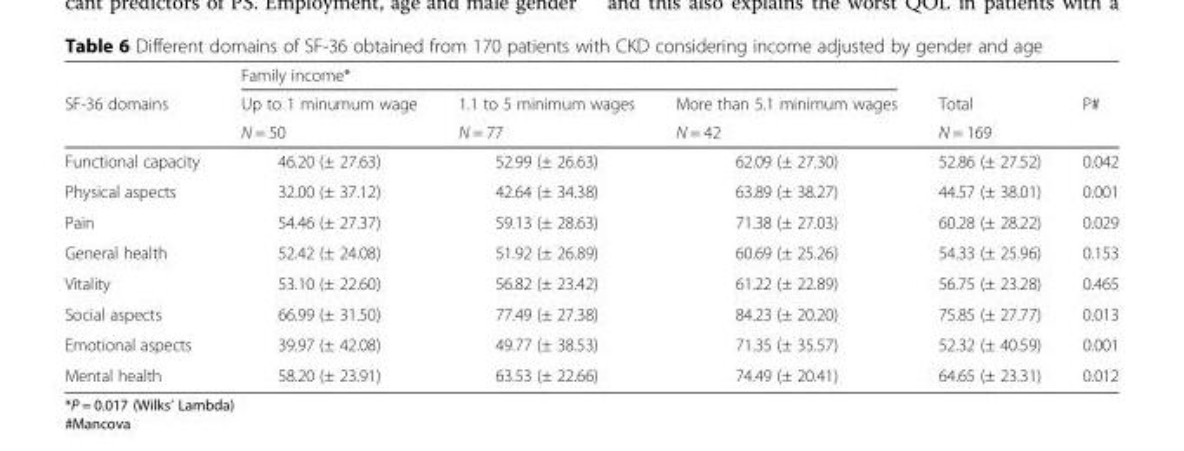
<table><thead><tr><td rowspan="3">SF-36 domains</td><td colspan="3">Family income*</td><td rowspan="3">Total N = 169</td><td rowspan="3">P#</td></tr><tr><td rowspan="2">Up to 1 minumum wage N = 50</td><td rowspan="2">1.1 to 5 minimum wages N = 77</td><td rowspan="2">More than 5.1 minimum wages N = 42</td></tr><tr></tr></thead><tbody><tr><td>Functional capacity</td><td>46.20 (± 27.63)</td><td>52.99 (± 26.63)</td><td>62.09 (± 27.30)</td><td>52.86 (± 27.52)</td><td>0.042</td></tr><tr><td>Physical aspects</td><td>32.00 (± 37.12)</td><td>42.64 (± 34.38)</td><td>63.89 (± 38.27)</td><td>44.57 (± 38.01)</td><td>0.001</td></tr><tr><td>Pain</td><td>54.46 (± 27.37)</td><td>59.13 (± 28.63)</td><td>71.38 (± 27.03)</td><td>60.28 (± 28.22)</td><td>0.029</td></tr><tr><td>General health</td><td>52.42 (± 24.08)</td><td>51.92 (± 26.89)</td><td>60.69 (± 25.26)</td><td>54.33 (± 25.96)</td><td>0.153</td></tr><tr><td>Vitality</td><td>53.10 (± 22.60)</td><td>56.82 (± 23.42)</td><td>61.22 (± 22.89)</td><td>56.75 (± 23.28)</td><td>0.465</td></tr><tr><td>Social aspects</td><td>66.99 (± 31.50)</td><td>77.49 (± 27.38)</td><td>84.23 (± 20.20)</td><td>75.85 (± 27.77)</td><td>0.013</td></tr><tr><td>Emotional aspects</td><td>39.97 (± 42.08)</td><td>49.77 (± 38.53)</td><td>71.35 (± 35.57)</td><td>52.32 (± 40.59)</td><td>0.001</td></tr><tr><td>Mental health</td><td>58.20 (± 23.91)</td><td>63.53 (± 22.66)</td><td>74.49 (± 20.41)</td><td>64.65 (± 23.31)</td><td>0.012</td></tr></tbody></table>